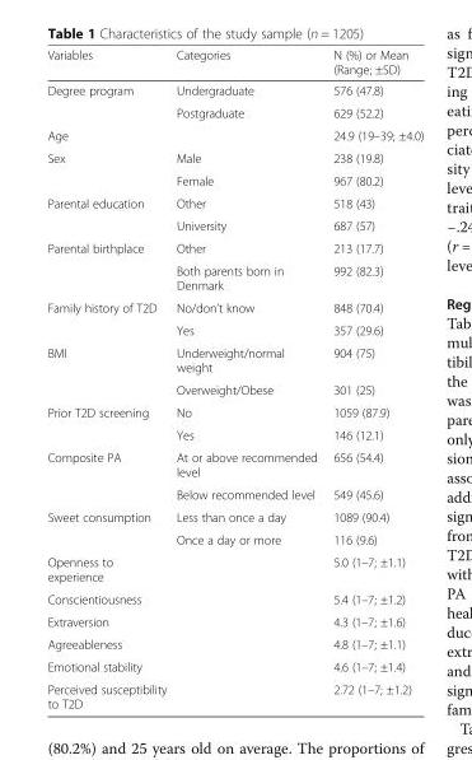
<table><thead><tr><td>Variables</td><td>Categories</td><td>N (%) or Mean (Range; ±SD)</td></tr></thead><tbody><tr><td rowspan="2">Degree program</td><td>Undergraduate</td><td>576 (47.8)</td></tr><tr><td>Postgraduate</td><td>629 (52.2)</td></tr><tr><td>Age</td><td></td><td>24.9 (19–39; ±4.0)</td></tr><tr><td rowspan="2">Sex</td><td>Male</td><td>238 (19.8)</td></tr><tr><td>Female</td><td>967 (80.2)</td></tr><tr><td rowspan="2">Parental education</td><td>Other</td><td>518 (43)</td></tr><tr><td>University</td><td>687 (57)</td></tr><tr><td rowspan="2">Parental birthplace</td><td>Other</td><td>213 (17.7)</td></tr><tr><td>Both parents born in Denmark</td><td>992 (82.3)</td></tr><tr><td rowspan="2">Family history of T2D</td><td>No/don’t know</td><td>848 (70.4)</td></tr><tr><td>Yes</td><td>357 (29.6)</td></tr><tr><td rowspan="2">BMI</td><td>Underweight/normal weight</td><td>904 (75)</td></tr><tr><td>Overweight/Obese</td><td>301 (25)</td></tr><tr><td rowspan="2">Prior T2D screening</td><td>No</td><td>1059 (87.9)</td></tr><tr><td>Yes</td><td>146 (12.1)</td></tr><tr><td rowspan="2">Composite PA</td><td>At or above recommended level</td><td>656 (54.4)</td></tr><tr><td>Below recommended level</td><td>549 (45.6)</td></tr><tr><td rowspan="2">Sweet consumption</td><td>Less than once a day</td><td>1089 (90.4)</td></tr><tr><td>Once a day or more</td><td>116 (9.6)</td></tr><tr><td>Openness to experience</td><td></td><td>5.0 (1–7; ±1.1)</td></tr><tr><td>Conscientiousness</td><td></td><td>5.4 (1–7; ±1.2)</td></tr><tr><td>Extraversion</td><td></td><td>4.3 (1–7; ±1.6)</td></tr><tr><td>Agreeableness</td><td></td><td>4.8 (1–7; ±1.1)</td></tr><tr><td>Emotional stability</td><td></td><td>4.6 (1–7; ±1.4)</td></tr><tr><td>Perceived susceptibility to T2D</td><td></td><td>2.72 (1–7; ±1.2)</td></tr></tbody></table>